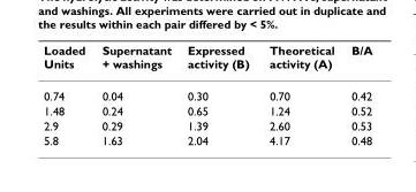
<table><thead><tr><td>Loaded Units</td><td>Supernatant + washings</td><td>Expressed activity (B)</td><td>Theoretical activity (A)</td><td>B/A</td></tr></thead><tbody><tr><td>0.74</td><td>0.04</td><td>0.30</td><td>0.70</td><td>0.42</td></tr><tr><td>1.48</td><td>0.24</td><td>0.65</td><td>1.24</td><td>0.52</td></tr><tr><td>2.9</td><td>0.29</td><td>1.39</td><td>2.60</td><td>0.53</td></tr><tr><td>5.8</td><td>1.63</td><td>2.04</td><td>4.17</td><td>0.48</td></tr></tbody></table>